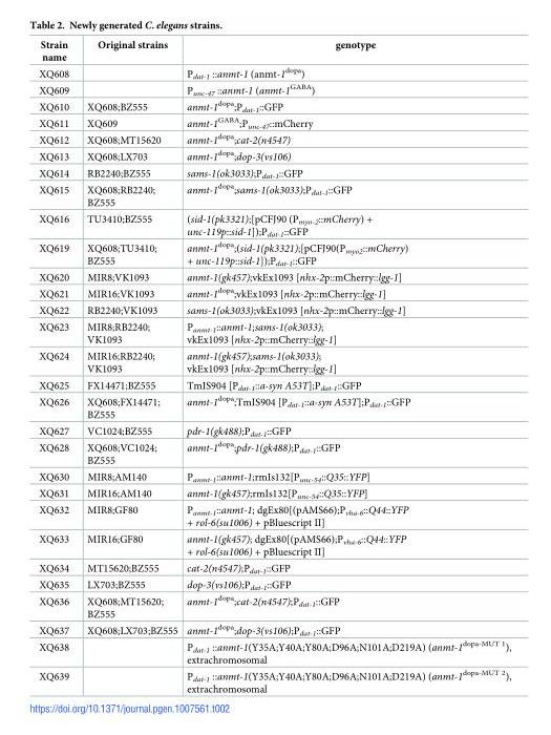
<table><thead><tr><td>Strain name</td><td>Original strains</td><td>genotype</td></tr></thead><tbody><tr><td>XQ608</td><td></td><td>P<sub>dat-1</sub> ::anmt-1 (anmt-1<sup>dopa</sup>)</td></tr><tr><td>XQ609</td><td></td><td>P<sub>unc-47</sub> ::anmt-1 (anmt-1<sup>GABA</sup>)</td></tr><tr><td>XQ610</td><td>XQ608;BZ555</td><td>anmt-1<sup>dopa</sup>;P<sub>dat-1</sub>::GFP</td></tr><tr><td>XQ611</td><td>XQ609</td><td>anmt-1<sup>GABA</sup>;P<sub>unc-47</sub>::mCherry</td></tr><tr><td>XQ612</td><td>XQ608;MT15620</td><td>anmt-1<sup>dopa</sup>;cat-2(n4547)</td></tr><tr><td>XQ613</td><td>XQ608;LX703</td><td>anmt-1<sup>dopa</sup>;dop-3(vs106)</td></tr><tr><td>XQ614</td><td>RB2240;BZ555</td><td>sams-1(ok3033);P<sub>dat-1</sub>::GFP</td></tr><tr><td>XQ615</td><td>XQ608;RB2240; BZ555</td><td>anmt-1<sup>dopa</sup>;sams-1(ok3033);P<sub>dat-1</sub>::GFP</td></tr><tr><td>XQ616</td><td>TU3410;BZ555</td><td>(sid-1(pk3321);[pCFJ90 (P<sub>myo-2</sub>::mCherry) + unc-119p::sid-1]);P<sub>dat-1</sub>::GFP</td></tr><tr><td>XQ619</td><td>XQ608;TU3410; BZ555</td><td>anmt-1<sup>dopa</sup>;(sid-1(pk3321);[pCFJ90(P<sub>myo2</sub>::mCherry) + unc-119p::sid-1]);P<sub>dat-1</sub>::GFP</td></tr><tr><td>XQ620</td><td>MIR8;VK1093</td><td>anmt-1(gk457);vkEx1093 [nhx-2p::mCherry::lgg-1]</td></tr><tr><td>XQ621</td><td>MIR16;VK1093</td><td>anmt-1<sup>dopa</sup>;vkEx1093 [nhx-2p::mCherry::lgg-1]</td></tr><tr><td>XQ622</td><td>RB2240;VK1093</td><td>sams-1(ok3033);vkEx1093 [nhx-2p::mCherry::lgg-1]</td></tr><tr><td>XQ623</td><td>MIR8;RB2240; VK1093</td><td>P<sub>anmt-1</sub>::anmt-1;sams-1(ok3033); vkEx1093 [nhx-2p::mCherry::lgg-1]</td></tr><tr><td>XQ624</td><td>MIR16;RB2240; VK1093</td><td>anmt-1(gk457);sams-1(ok3033); vkEx1093 [nhx-2p::mCherry::lgg-1]</td></tr><tr><td>XQ625</td><td>FX14471;BZ555</td><td>TmIS904 [P<sub>dat-1</sub>::a-syn A53T];P<sub>dat-1</sub>::GFP</td></tr><tr><td>XQ626</td><td>XQ608;FX14471; BZ555</td><td>anmt-1<sup>dopa</sup>;TmIS904 [P<sub>dat-1</sub>::a-syn A53T];P<sub>dat-1</sub>::GFP</td></tr><tr><td>XQ627</td><td>VC1024;BZ555</td><td>pdr-1(gk488);P<sub>dat-1</sub>::GFP</td></tr><tr><td>XQ628</td><td>XQ608;VC1024; BZ555</td><td>anmt-1<sup>dopa</sup>;pdr-1(gk488);P<sub>dat-1</sub>::GFP</td></tr><tr><td>XQ630</td><td>MIR8;AM140</td><td>P<sub>anmt-1</sub>::anmt-1;rmIs132[P<sub>unc-54</sub>::Q35::YFP]</td></tr><tr><td>XQ631</td><td>MIR16;AM140</td><td>anmt-1(gk457);rmIs132[P<sub>unc-54</sub>::Q35::YFP]</td></tr><tr><td>XQ632</td><td>MIR8;GF80</td><td>P<sub>anmt-1</sub>::anmt-1; dgEx80[(pAMS66);P<sub>vha-6</sub>::Q44::YFP + rol-6(su1006) + pBluescript II]</td></tr><tr><td>XQ633</td><td>MIR16;GF80</td><td>anmt-1(gk457); dgEx80[(pAMS66);P<sub>vha-6</sub>::Q44::YFP + rol-6(su1006) + pBluescript II]</td></tr><tr><td>XQ634</td><td>MT15620;BZ555</td><td>cat-2(n4547);P<sub>dat-1</sub>::GFP</td></tr><tr><td>XQ635</td><td>LX703;BZ555</td><td>dop-3(vs106);P<sub>dat-1</sub>::GFP</td></tr><tr><td>XQ636</td><td>XQ608;MT15620; BZ555</td><td>anmt-1<sup>dopa</sup>;cat-2(n4547);P<sub>dat-1</sub>::GFP</td></tr><tr><td>XQ637</td><td>XQ608;LX703;BZ555</td><td>anmt-1<sup>dopa</sup>;dop-3(vs106);P<sub>dat-1</sub>::GFP</td></tr><tr><td>XQ638</td><td></td><td>P<sub>dat-1</sub> ::anmt-1(Y35A;Y40A;Y80A;D96A;N101A;D219A) (anmt-1<sup>dopa-MUT 1</sup>), extrachromosomal</td></tr><tr><td>XQ639</td><td></td><td>P<sub>dat-1</sub> ::anmt-1(Y35A;Y40A;Y80A;D96A;N101A;D219A) (anmt-1<sup>dopa-MUT 2</sup>), extrachromosomal</td></tr></tbody></table>